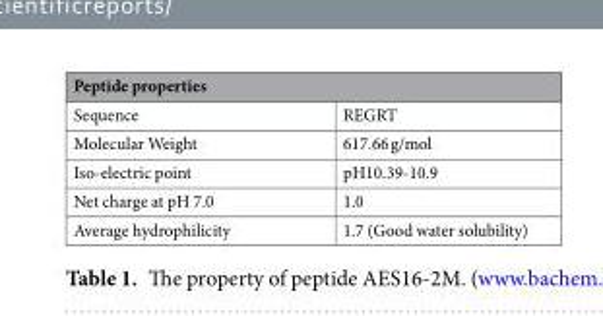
<table><thead><tr><td colspan="2">Peptide properties</td></tr><tr><td>Sequence</td><td>REGRT</td></tr></thead><tbody><tr><td>Molecular Weight</td><td>617.66 g/mol</td></tr><tr><td>Iso-electric point</td><td>pH10.39-10.9</td></tr><tr><td>Net charge at pH 7.0</td><td>1.0</td></tr><tr><td>Average hydrophilicity</td><td>1.7 (Good water solubility)</td></tr></tbody></table>